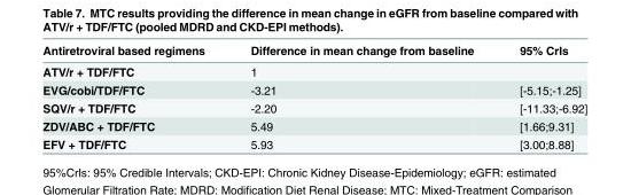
<table><thead><tr><td>Antiretroviral based regimens</td><td>Difference in mean change from baseline</td><td>95% CrIs</td></tr></thead><tbody><tr><td>ATV/r + TDF/FTC</td><td>1</td><td></td></tr><tr><td>EVG/cobi/TDF/FTC</td><td>-3.21</td><td>[-5.15;-1.25]</td></tr><tr><td>SQV/r + TDF/FTC</td><td>-2.20</td><td>[-11.33;-6.92]</td></tr><tr><td>ZDV/ABC + TDF/FTC</td><td>5.49</td><td>[1.66;9.31]</td></tr><tr><td>EFV + TDF/FTC</td><td>5.93</td><td>[3.00;8.88]</td></tr></tbody></table>